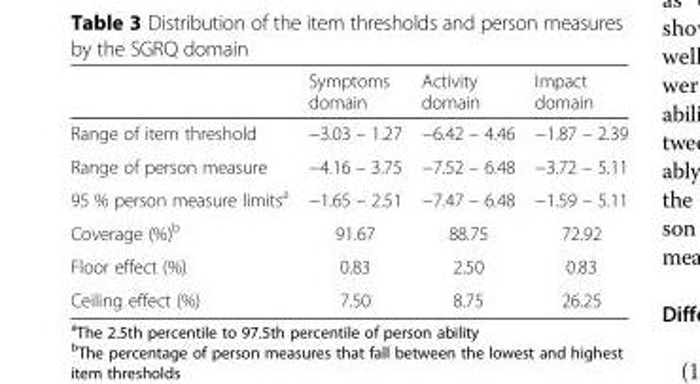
<table><thead><tr><td></td><td>Symptoms domain</td><td>Activity domain</td><td>Impact domain</td></tr></thead><tbody><tr><td>Range of item threshold</td><td>−3.03 – 1.27</td><td>−6.42 – 4.46</td><td>−1.87 – 2.39</td></tr><tr><td>Range of person measure</td><td>−4.16 – 3.75</td><td>−7.52 – 6.48</td><td>−3.72 – 5.11</td></tr><tr><td>95 % person measure limits<sup>a</sup></td><td>−1.65 – 2.51</td><td>−7.47 – 6.48</td><td>−1.59 – 5.11</td></tr><tr><td>Coverage (%)<sup>b</sup></td><td>91.67</td><td>88.75</td><td>72.92</td></tr><tr><td>Floor effect (%)</td><td>0.83</td><td>2.50</td><td>0.83</td></tr><tr><td>Ceiling effect (%)</td><td>7.50</td><td>8.75</td><td>26.25</td></tr></tbody></table>